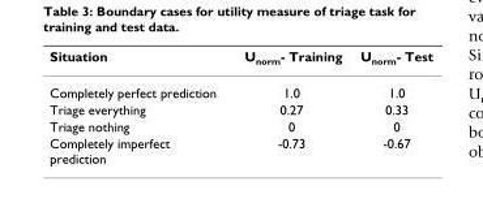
<table><thead><tr><td>Situation</td><td>U<sub>norm</sub>- Training</td><td>U<sub>norm</sub>- Test</td></tr></thead><tbody><tr><td>Completely perfect prediction</td><td>1.0</td><td>1.0</td></tr><tr><td>Triage everything</td><td>0.27</td><td>0.33</td></tr><tr><td>Triage nothing</td><td>0</td><td>0</td></tr><tr><td>Completely imperfect prediction</td><td>-0.73</td><td>-0.67</td></tr></tbody></table>